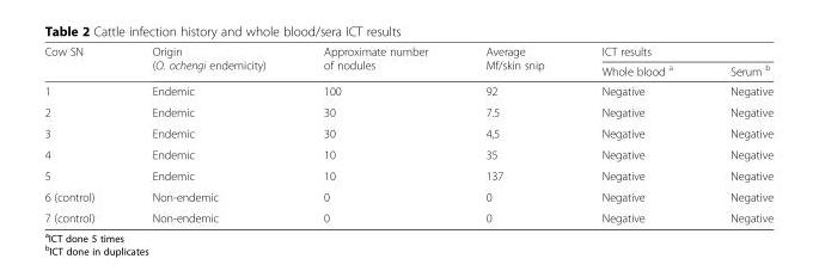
<table><thead><tr><td rowspan="2">Cow SN</td><td rowspan="2">Origin (O. ochengi endemicity)</td><td rowspan="2">Approximate number of nodules</td><td rowspan="2">Average Mf/skin snip</td><td colspan="2">ICT results</td></tr><tr><td>Whole blood <sup>a</sup></td><td>Serum <sup>b</sup></td></tr></thead><tbody><tr><td>1</td><td>Endemic</td><td>100</td><td>92</td><td>Negative</td><td>Negative</td></tr><tr><td>2</td><td>Endemic</td><td>30</td><td>7.5</td><td>Negative</td><td>Negative</td></tr><tr><td>3</td><td>Endemic</td><td>30</td><td>4,5</td><td>Negative</td><td>Negative</td></tr><tr><td>4</td><td>Endemic</td><td>10</td><td>35</td><td>Negative</td><td>Negative</td></tr><tr><td>5</td><td>Endemic</td><td>10</td><td>137</td><td>Negative</td><td>Negative</td></tr><tr><td>6 (control)</td><td>Non-endemic</td><td>0</td><td>0</td><td>Negative</td><td>Negative</td></tr><tr><td>7 (control)</td><td>Non-endemic</td><td>0</td><td>0</td><td>Negative</td><td>Negative</td></tr></tbody></table>